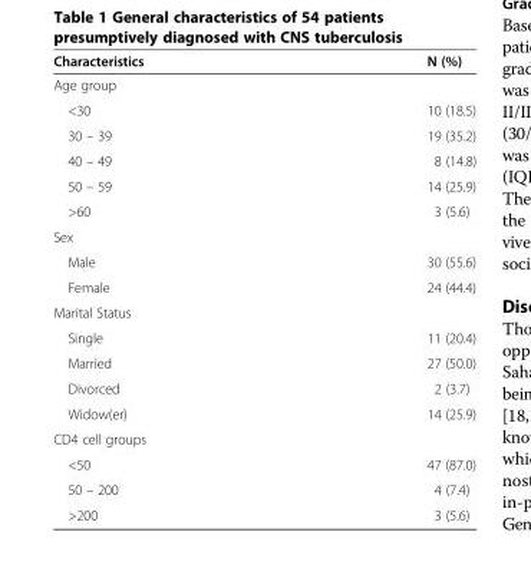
<table><thead><tr><td>Characteristics</td><td>N (%)</td></tr></thead><tbody><tr><td colspan="2">Age group</td></tr><tr><td>&lt;30</td><td>10 (18.5)</td></tr><tr><td>30 – 39</td><td>19 (35.2)</td></tr><tr><td>40 – 49</td><td>8 (14.8)</td></tr><tr><td>50 – 59</td><td>14 (25.9)</td></tr><tr><td>&gt;60</td><td>3 (5.6)</td></tr><tr><td colspan="2">Sex</td></tr><tr><td>Male</td><td>30 (55.6)</td></tr><tr><td>Female</td><td>24 (44.4)</td></tr><tr><td colspan="2">Marital Status</td></tr><tr><td>Single</td><td>11 (20.4)</td></tr><tr><td>Married</td><td>27 (50.0)</td></tr><tr><td>Divorced</td><td>2 (3.7)</td></tr><tr><td>Widow(er)</td><td>14 (25.9)</td></tr><tr><td colspan="2">CD4 cell groups</td></tr><tr><td>&lt;50</td><td>47 (87.0)</td></tr><tr><td>50 – 200</td><td>4 (7.4)</td></tr><tr><td>&gt;200</td><td>3 (5.6)</td></tr></tbody></table>